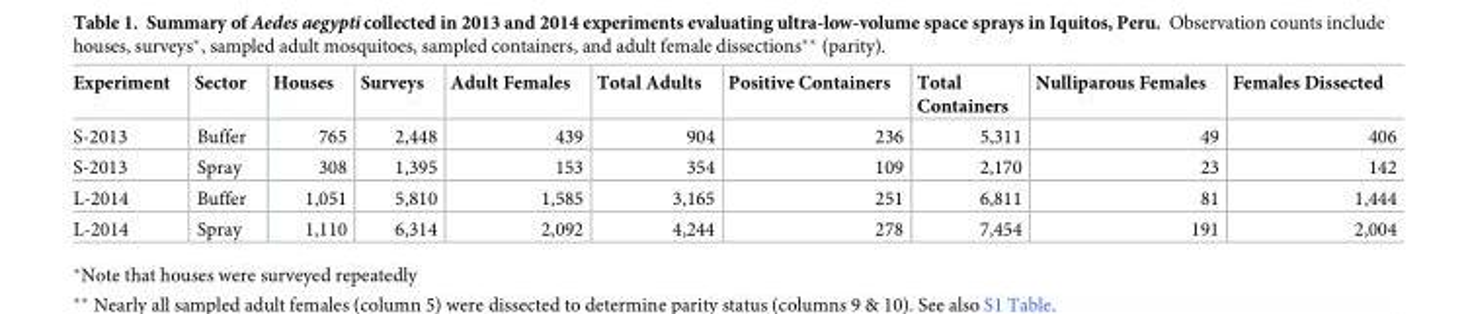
<table><thead><tr><td>Experiment</td><td>Sector</td><td>Houses</td><td>Surveys</td><td>Adult Females</td><td>Total Adults</td><td>Positive Containers</td><td>Total Containers</td><td>Nulliparous Females</td><td>Females Dissected</td></tr></thead><tbody><tr><td>S-2013</td><td>Buffer</td><td>765</td><td>2,448</td><td>439</td><td>904</td><td>236</td><td>5,311</td><td>49</td><td>406</td></tr><tr><td>S-2013</td><td>Spray</td><td>308</td><td>1,395</td><td>153</td><td>354</td><td>109</td><td>2,170</td><td>23</td><td>142</td></tr><tr><td>L-2014</td><td>Buffer</td><td>1,051</td><td>5,810</td><td>1,585</td><td>3,165</td><td>251</td><td>6,811</td><td>81</td><td>1,444</td></tr><tr><td>L-2014</td><td>Spray</td><td>1,110</td><td>6,314</td><td>2,092</td><td>4,244</td><td>278</td><td>7,454</td><td>191</td><td>2,004</td></tr></tbody></table>